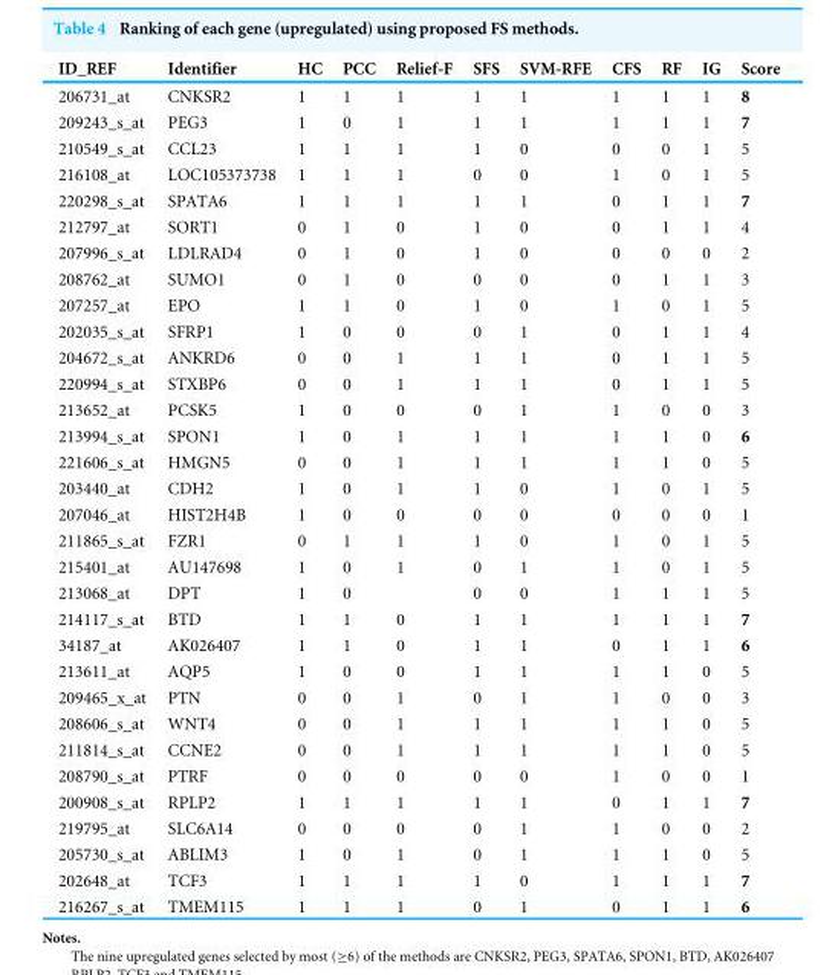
<table><thead><tr><td>ID_REF</td><td>Identifier</td><td>HC</td><td>PCC</td><td>Relief-F</td><td>SFS</td><td>SVM-RFE</td><td>CFS</td><td>RF</td><td>IG</td><td>Score</td></tr></thead><tbody><tr><td>206731_at</td><td>CNKSR2</td><td>1</td><td>1</td><td>1</td><td>1</td><td>1</td><td>1</td><td>1</td><td>1</td><td>8</td></tr><tr><td>209243_s_at</td><td>PEG3</td><td>1</td><td>0</td><td>1</td><td>1</td><td>1</td><td>1</td><td>1</td><td>1</td><td>7</td></tr><tr><td>210549_s_at</td><td>CCL23</td><td>1</td><td>1</td><td>1</td><td>1</td><td>0</td><td>0</td><td>0</td><td>1</td><td>5</td></tr><tr><td>216108_at</td><td>LOC105373738</td><td>1</td><td>1</td><td>1</td><td>0</td><td>0</td><td>1</td><td>0</td><td>1</td><td>5</td></tr><tr><td>220298_s_at</td><td>SPATA6</td><td>1</td><td>1</td><td>1</td><td>1</td><td>1</td><td>0</td><td>1</td><td>1</td><td>7</td></tr><tr><td>212797_at</td><td>SORT1</td><td>0</td><td>1</td><td>0</td><td>1</td><td>0</td><td>0</td><td>1</td><td>1</td><td>4</td></tr><tr><td>207996_s_at</td><td>LDLRAD4</td><td>0</td><td>1</td><td>0</td><td>1</td><td>0</td><td>0</td><td>0</td><td>0</td><td>2</td></tr><tr><td>208762_at</td><td>SUMO1</td><td>0</td><td>1</td><td>0</td><td>0</td><td>0</td><td>0</td><td>1</td><td>1</td><td>3</td></tr><tr><td>207257_at</td><td>EPO</td><td>1</td><td>1</td><td>0</td><td>1</td><td>0</td><td>1</td><td>0</td><td>1</td><td>5</td></tr><tr><td>202035_s_at</td><td>SFRP1</td><td>1</td><td>0</td><td>0</td><td>0</td><td>1</td><td>0</td><td>1</td><td>1</td><td>4</td></tr><tr><td>204672_s_at</td><td>ANKRD6</td><td>0</td><td>0</td><td>1</td><td>1</td><td>1</td><td>0</td><td>1</td><td>1</td><td>5</td></tr><tr><td>220994_s_at</td><td>STXBP6</td><td>0</td><td>0</td><td>1</td><td>1</td><td>1</td><td>0</td><td>1</td><td>1</td><td>5</td></tr><tr><td>213652_at</td><td>PCSK5</td><td>1</td><td>0</td><td>0</td><td>0</td><td>1</td><td>1</td><td>0</td><td>0</td><td>3</td></tr><tr><td>213994_s_at</td><td>SPON1</td><td>1</td><td>0</td><td>1</td><td>1</td><td>1</td><td>1</td><td>1</td><td>0</td><td>6</td></tr><tr><td>221606_s_at</td><td>HMGN5</td><td>0</td><td>0</td><td>1</td><td>1</td><td>1</td><td>1</td><td>1</td><td>0</td><td>5</td></tr><tr><td>203440_at</td><td>CDH2</td><td>1</td><td>0</td><td>1</td><td>1</td><td>0</td><td>1</td><td>0</td><td>1</td><td>5</td></tr><tr><td>207046_at</td><td>HIST2H4B</td><td>1</td><td>0</td><td>0</td><td>0</td><td>0</td><td>0</td><td>0</td><td>0</td><td>1</td></tr><tr><td>211865_s_at</td><td>FZR1</td><td>0</td><td>1</td><td>1</td><td>1</td><td>0</td><td>1</td><td>0</td><td>1</td><td>5</td></tr><tr><td>215401_at</td><td>AU147698</td><td>1</td><td>0</td><td>1</td><td>0</td><td>1</td><td>1</td><td>0</td><td>1</td><td>5</td></tr><tr><td>213068_at</td><td>DPT</td><td>1</td><td>0</td><td></td><td>0</td><td>0</td><td>1</td><td>1</td><td>1</td><td>5</td></tr><tr><td>214117_s_at</td><td>BTD</td><td>1</td><td>1</td><td>0</td><td>1</td><td>1</td><td>1</td><td>1</td><td>1</td><td>7</td></tr><tr><td>34187_at</td><td>AK026407</td><td>1</td><td>1</td><td>0</td><td>1</td><td>1</td><td>0</td><td>1</td><td>1</td><td>6</td></tr><tr><td>213611_at</td><td>AQP5</td><td>1</td><td>0</td><td>0</td><td>1</td><td>1</td><td>1</td><td>1</td><td>0</td><td>5</td></tr><tr><td>209465_x_at</td><td>PTN</td><td>0</td><td>0</td><td>1</td><td>0</td><td>1</td><td>1</td><td>0</td><td>0</td><td>3</td></tr><tr><td>208606_s_at</td><td>WNT4</td><td>0</td><td>0</td><td>1</td><td>1</td><td>1</td><td>1</td><td>1</td><td>0</td><td>5</td></tr><tr><td>211814_s_at</td><td>CCNE2</td><td>0</td><td>0</td><td>1</td><td>1</td><td>1</td><td>1</td><td>1</td><td>0</td><td>5</td></tr><tr><td>208790_s_at</td><td>PTRF</td><td>0</td><td>0</td><td>0</td><td>0</td><td>0</td><td>1</td><td>0</td><td>0</td><td>1</td></tr><tr><td>200908_s_at</td><td>RPLP2</td><td>1</td><td>1</td><td>1</td><td>1</td><td>1</td><td>0</td><td>1</td><td>1</td><td>7</td></tr><tr><td>219795_at</td><td>SLC6A14</td><td>0</td><td>0</td><td>0</td><td>0</td><td>1</td><td>1</td><td>0</td><td>0</td><td>2</td></tr><tr><td>205730_s_at</td><td>ABLIM3</td><td>1</td><td>0</td><td>1</td><td>0</td><td>1</td><td>1</td><td>1</td><td>0</td><td>5</td></tr><tr><td>202648_at</td><td>TCF3</td><td>1</td><td>1</td><td>1</td><td>1</td><td>0</td><td>1</td><td>1</td><td>1</td><td>7</td></tr><tr><td>216267_s_at</td><td>TMEM115</td><td>1</td><td>1</td><td>1</td><td>0</td><td>1</td><td>0</td><td>1</td><td>1</td><td>6</td></tr></tbody></table>